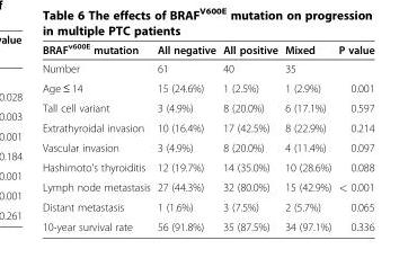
<table><thead><tr><td>BRAF<sup>v600E</sup> mutation</td><td>All negative</td><td>All positive</td><td>Mixed</td><td>P value</td></tr></thead><tbody><tr><td>Number</td><td>61</td><td>40</td><td>35</td><td></td></tr><tr><td>Age ≤ 14</td><td>15 (24.6%)</td><td>1 (2.5%)</td><td>1 (2.9%)</td><td>0.001</td></tr><tr><td>Tall cell variant</td><td>3 (4.9%)</td><td>8 (20.0%)</td><td>6 (17.1%)</td><td>0.597</td></tr><tr><td>Extrathyroidal invasion</td><td>10 (16.4%)</td><td>17 (42.5%)</td><td>8 (22.9%)</td><td>0.214</td></tr><tr><td>Vascular invasion</td><td>3 (4.9%)</td><td>8 (20.0%)</td><td>4 (11.4%)</td><td>0.097</td></tr><tr><td>Hashimoto’s thyroiditis</td><td>12 (19.7%)</td><td>14 (35.0%)</td><td>10 (28.6%)</td><td>0.088</td></tr><tr><td>Lymph node metastasis</td><td>27 (44.3%)</td><td>32 (80.0%)</td><td>15 (42.9%)</td><td>&lt; 0.001</td></tr><tr><td>Distant metastasis</td><td>1 (1.6%)</td><td>3 (7.5%)</td><td>2 (5.7%)</td><td>0.065</td></tr><tr><td>10-year survival rate</td><td>56 (91.8%)</td><td>35 (87.5%)</td><td>34 (97.1%)</td><td>0.336</td></tr></tbody></table>